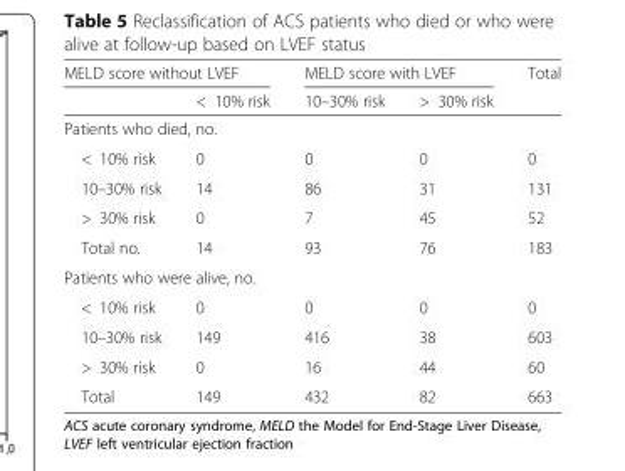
<table><thead><tr><td colspan="2">MELD score without LVEF</td><td colspan="2">MELD score with LVEF</td><td rowspan="2">Total</td></tr><tr><td></td><td>&lt; 10% risk</td><td>10–30% risk</td><td>&gt; 30% risk</td></tr></thead><tbody><tr><td colspan="5">Patients who died, no.</td></tr><tr><td>&lt; 10% risk</td><td>0</td><td>0</td><td>0</td><td>0</td></tr><tr><td>10–30% risk</td><td>14</td><td>86</td><td>31</td><td>131</td></tr><tr><td>&gt; 30% risk</td><td>0</td><td>7</td><td>45</td><td>52</td></tr><tr><td>Total no.</td><td>14</td><td>93</td><td>76</td><td>183</td></tr><tr><td colspan="5">Patients who were alive, no.</td></tr><tr><td>&lt; 10% risk</td><td>0</td><td>0</td><td>0</td><td>0</td></tr><tr><td>10–30% risk</td><td>149</td><td>416</td><td>38</td><td>603</td></tr><tr><td>&gt; 30% risk</td><td>0</td><td>16</td><td>44</td><td>60</td></tr><tr><td>Total</td><td>149</td><td>432</td><td>82</td><td>663</td></tr></tbody></table>